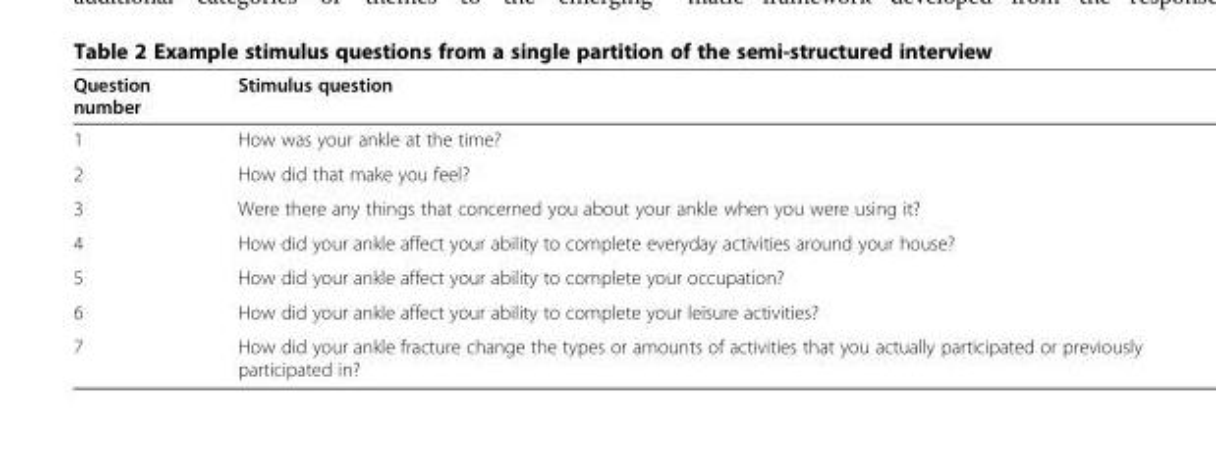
<table><thead><tr><td>Question number</td><td>Stimulus question</td></tr></thead><tbody><tr><td>1</td><td>How was your ankle at the time?</td></tr><tr><td>2</td><td>How did that make you feel?</td></tr><tr><td>3</td><td>Were there any things that concerned you about your ankle when you were using it?</td></tr><tr><td>4</td><td>How did your ankle affect your ability to complete everyday activities around your house?</td></tr><tr><td>5</td><td>How did your ankle affect your ability to complete your occupation?</td></tr><tr><td>6</td><td>How did your ankle affect your ability to complete your leisure activities?</td></tr><tr><td>7</td><td>How did your ankle fracture change the types or amounts of activities that you actually participated or previously participated in?</td></tr></tbody></table>